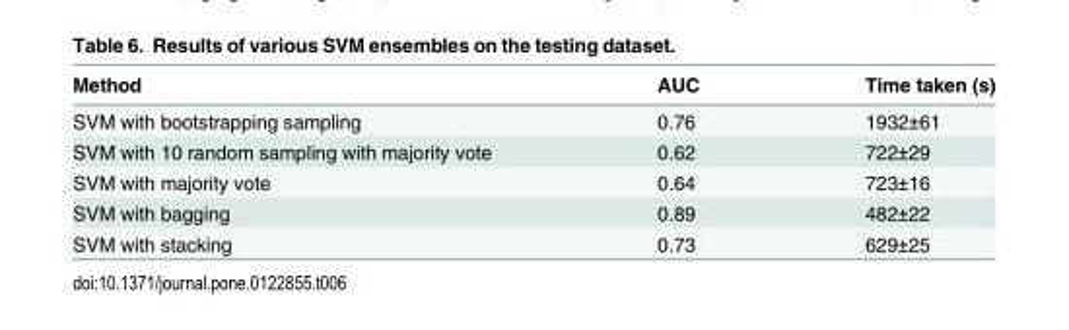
<table><thead><tr><td>Method</td><td>AUC</td><td>Time taken (s)</td></tr></thead><tbody><tr><td>SVM with bootstrapping sampling</td><td>0.76</td><td>1932±61</td></tr><tr><td>SVM with 10 random sampling with majority vote</td><td>0.62</td><td>722±29</td></tr><tr><td>SVM with majority vote</td><td>0.64</td><td>723±16</td></tr><tr><td>SVM with bagging</td><td>0.89</td><td>482±22</td></tr><tr><td>SVM with stacking</td><td>0.73</td><td>629±25</td></tr></tbody></table>